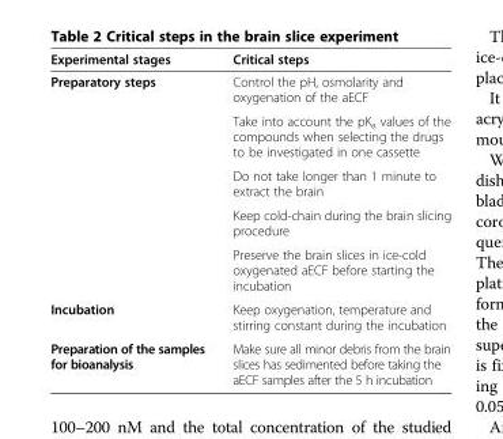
<table><thead><tr><td>Experimental stages</td><td>Critical steps</td></tr></thead><tbody><tr><td rowspan="5">Preparatory steps</td><td>Control the pH, osmolarity and oxygenation of the aECF</td></tr><tr><td>Take into account the pK<sub>a</sub> values of the compounds when selecting the drugs to be investigated in one cassette</td></tr><tr><td>Do not take longer than 1 minute to extract the brain</td></tr><tr><td>Keep cold-chain during the brain slicing procedure</td></tr><tr><td>Preserve the brain slices in ice-cold oxygenated aECF before starting the incubation</td></tr><tr><td>Incubation</td><td>Keep oxygenation, temperature and stirring constant during the incubation</td></tr><tr><td>Preparation of the samples for bioanalysis</td><td>Make sure all minor debris from the brain slices has sedimented before taking the aECF samples after the 5 h incubation</td></tr></tbody></table>